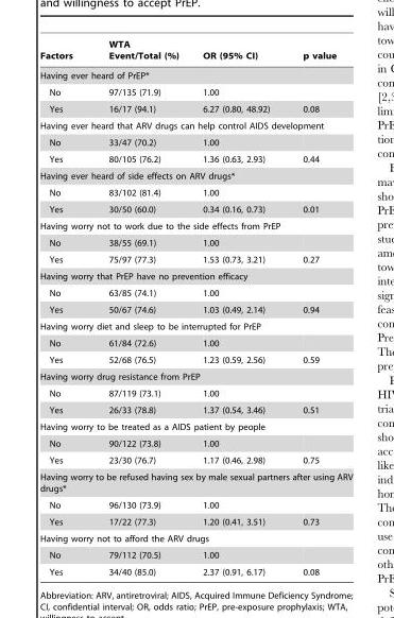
<table><thead><tr><td>Factors</td><td>WTA Event/Total (%)</td><td>OR (95% CI)</td><td>p value</td></tr></thead><tbody><tr><td colspan="4">Having ever heard of PrEP*</td></tr><tr><td>No</td><td>97/135 (71.9)</td><td>1.00</td><td></td></tr><tr><td>Yes</td><td>16/17 (94.1)</td><td>6.27 (0.80, 48.92)</td><td>0.08</td></tr><tr><td colspan="4">Having ever heard that ARV drugs can help control AIDS development</td></tr><tr><td>No</td><td>33/47 (70.2)</td><td>1.00</td><td></td></tr><tr><td>Yes</td><td>80/105 (76.2)</td><td>1.36 (0.63, 2.93)</td><td>0.44</td></tr><tr><td colspan="4">Having ever heard of side effects on ARV drugs*</td></tr><tr><td>No</td><td>83/102 (81.4)</td><td>1.00</td><td></td></tr><tr><td>Yes</td><td>30/50 (60.0)</td><td>0.34 (0.16, 0.73)</td><td>0.01</td></tr><tr><td colspan="4">Having worry not to work due to the side effects from PrEP</td></tr><tr><td>No</td><td>38/55 (69.1)</td><td>1.00</td><td></td></tr><tr><td>Yes</td><td>75/97 (77.3)</td><td>1.53 (0.73, 3.21)</td><td>0.27</td></tr><tr><td colspan="4">Having worry that PrEP have no prevention efficacy</td></tr><tr><td>No</td><td>63/85 (74.1)</td><td>1.00</td><td></td></tr><tr><td>Yes</td><td>50/67 (74.6)</td><td>1.03 (0.49, 2.14)</td><td>0.94</td></tr><tr><td colspan="4">Having worry diet and sleep to be interrupted for PrEP</td></tr><tr><td>No</td><td>61/84 (72.6)</td><td>1.00</td><td></td></tr><tr><td>Yes</td><td>52/68 (76.5)</td><td>1.23 (0.59, 2.56)</td><td>0.59</td></tr><tr><td colspan="4">Having worry drug resistance from PrEP</td></tr><tr><td>No</td><td>87/119 (73.1)</td><td>1.00</td><td></td></tr><tr><td>Yes</td><td>26/33 (78.8)</td><td>1.37 (0.54, 3.46)</td><td>0.51</td></tr><tr><td colspan="4">Having worry to be treated as a AIDS patient by people</td></tr><tr><td>No</td><td>90/122 (73.8)</td><td>1.00</td><td></td></tr><tr><td>Yes</td><td>23/30 (76.7)</td><td>1.17 (0.46, 2.98)</td><td>0.75</td></tr><tr><td colspan="4">Having worry to be refused having sex by male sexual partners after using ARV drugs*</td></tr><tr><td>No</td><td>96/130 (73.9)</td><td>1.00</td><td></td></tr><tr><td>Yes</td><td>17/22 (77.3)</td><td>1.20 (0.41, 3.51)</td><td>0.73</td></tr><tr><td colspan="4">Having worry not to afford the ARV drugs</td></tr><tr><td>No</td><td>79/112 (70.5)</td><td>1.00</td><td></td></tr><tr><td>Yes</td><td>34/40 (85.0)</td><td>2.37 (0.91, 6.17)</td><td>0.08</td></tr></tbody></table>